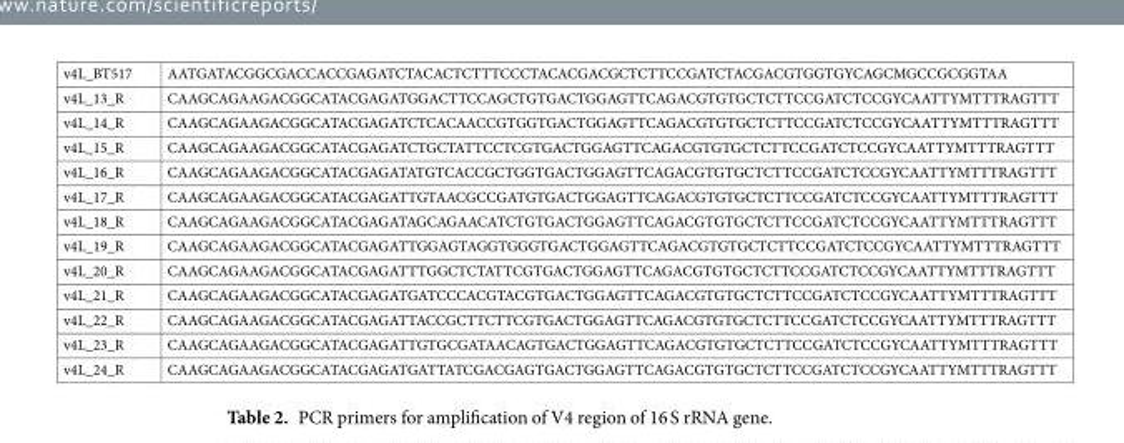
<table><tbody><tr><td>v4L_BT517</td><td>AATGATACGGCGACCACCGAGATCTACACTCTTTCCCTACACGACGCTCTTCCGATCTACGACGTGGTGYCAGCMGCCGCGGTAA</td></tr><tr><td>v4L_13_R</td><td>CAAGCAGAAGACGGCATACGAGATGGACTTCCAGCTGTGACTGGAGTTCAGACGTGTGCTCTTCCGATCTCCGYCAATTYMTTTRAGTTT</td></tr><tr><td>v4L_14_R</td><td>CAAGCAGAAGACGGCATACGAGATCTCACAACCGTGGTGACTGGAGTTCAGACGTGTGCTCTTCCGATCTCCGYCAATTYMTTTRAGTTT</td></tr><tr><td>v4L_15_R</td><td>CAAGCAGAAGACGGCATACGAGATCTGCTATTCCTCGTGACTGGAGTTCAGACGTGTGCTCTTCCGATCTCCGYCAATTYMTTTRAGTTT</td></tr><tr><td>v4L_16_R</td><td>CAAGCAGAAGACGGCATACGAGATATGTCACCGCTGGTGACTGGAGTTCAGACGTGTGCTCTTCCGATCTCCGYCAATTYMTTTRAGTTT</td></tr><tr><td>v4L_17_R</td><td>CAAGCAGAAGACGGCATACGAGATTGTAACGCCGATGTGACTGGAGTTCAGACGTGTGCTCTTCCGATCTCCGYCAATTYMTTTRAGTTT</td></tr><tr><td>v4L_18_R</td><td>CAAGCAGAAGACGGCATACGAGATAGCAGAACATCTGTGACTGGAGTTCAGACGTGTGCTCTTCCGATCTCCGYCAATTYMTTTRAGTTT</td></tr><tr><td>v4L_19_R</td><td>CAAGCAGAAGACGGCATACGAGATTGGAGTAGGTGGGTGACTGGAGTTCAGACGTGTGCTCTTCCGATCTCCGYCAATTYMTTTRAGTTT</td></tr><tr><td>v4L_20_R</td><td>CAAGCAGAAGACGGCATACGAGATTTGGCTCTATTCGTGACTGGAGTTCAGACGTGTGCTCTTCCGATCTCCGYCAATTYMTTTRAGTTT</td></tr><tr><td>v4L_21_R</td><td>CAAGCAGAAGACGGCATACGAGATGATCCCACGTACGTGACTGGAGTTCAGACGTGTGCTCTTCCGATCTCCGYCAATTYMTTTRAGTTT</td></tr><tr><td>v4L_22_R</td><td>CAAGCAGAAGACGGCATACGAGATTACCGCTTCTTCGTGACTGGAGTTCAGACGTGTGCTCTTCCGATCTCCGYCAATTYMTTTRAGTTT</td></tr><tr><td>v4L_23_R</td><td>CAAGCAGAAGACGGCATACGAGATTGTGCGATAACAGTGACTGGAGTTCAGACGTGTGCTCTTCCGATCTCCGYCAATTYMTTTRAGTTT</td></tr><tr><td>v4L_24_R</td><td>CAAGCAGAAGACGGCATACGAGATGATTATCGACGAGTGACTGGAGTTCAGACGTGTGCTCTTCCGATCTCCGYCAATTYMTTTRAGTTT</td></tr></tbody></table>